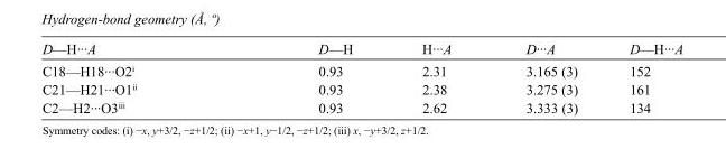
<table><tbody><tr><td>D—H···A</td><td>D—H</td><td>H···A</td><td>D···A</td><td>D—H···A</td></tr><tr><td>C18—H18···O2<sup>i</sup></td><td>0.93</td><td>2.31</td><td>3.165 (3)</td><td>152</td></tr><tr><td>C21—H21···O1<sup>ii</sup></td><td>0.93</td><td>2.38</td><td>3.275 (3)</td><td>161</td></tr><tr><td>C2—H2···O3<sup>iii</sup></td><td>0.93</td><td>2.62</td><td>3.333 (3)</td><td>134</td></tr></tbody></table>